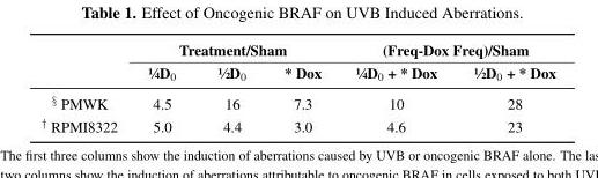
<table><thead><tr><td rowspan="2"></td><td colspan="3">Treatment/Sham</td><td colspan="2">(Freq-Dox Freq)/Sham</td></tr><tr><td>¼D<sub>0</sub></td><td>½D<sub>0</sub></td><td>* Dox</td><td>¼D<sub>0</sub> + * Dox</td><td>½D<sub>0</sub> + * Dox</td></tr></thead><tbody><tr><td><sup>§</sup> PMWK</td><td>4.5</td><td>16</td><td>7.3</td><td>10</td><td>28</td></tr><tr><td><sup>†</sup> RPMI8322</td><td>5.0</td><td>4.4</td><td>3.0</td><td>4.6</td><td>23</td></tr></tbody></table>